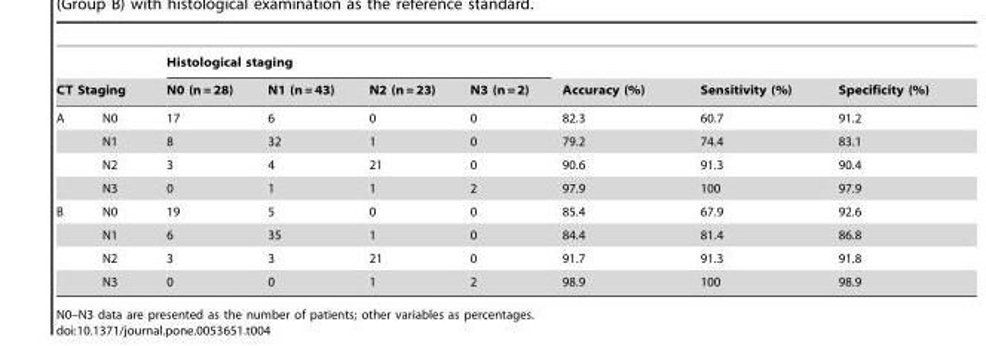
<table><thead><tr><td></td><td></td><td colspan="4">Histological staging</td><td rowspan="2">Accuracy (%)</td><td rowspan="2">Sensitivity (%)</td><td rowspan="2">Specificity (%)</td></tr><tr><td colspan="2">CT Staging</td><td>N0 (n = 28)</td><td>N1 (n = 43)</td><td>N2 (n = 23)</td><td>N3 (n = 2)</td></tr></thead><tbody><tr><td rowspan="4">A</td><td>N0</td><td>17</td><td>6</td><td>0</td><td>0</td><td>82.3</td><td>60.7</td><td>91.2</td></tr><tr><td>N1</td><td>8</td><td>32</td><td>1</td><td>0</td><td>79.2</td><td>74.4</td><td>83.1</td></tr><tr><td>N2</td><td>3</td><td>4</td><td>21</td><td>0</td><td>90.6</td><td>91.3</td><td>90.4</td></tr><tr><td>N3</td><td>0</td><td>1</td><td>1</td><td>2</td><td>97.9</td><td>100</td><td>97.9</td></tr><tr><td rowspan="4">B</td><td>N0</td><td>19</td><td>5</td><td>0</td><td>0</td><td>85.4</td><td>67.9</td><td>92.6</td></tr><tr><td>N1</td><td>6</td><td>35</td><td>1</td><td>0</td><td>84.4</td><td>81.4</td><td>86.8</td></tr><tr><td>N2</td><td>3</td><td>3</td><td>21</td><td>0</td><td>91.7</td><td>91.3</td><td>91.8</td></tr><tr><td>N3</td><td>0</td><td>0</td><td>1</td><td>2</td><td>98.9</td><td>100</td><td>98.9</td></tr></tbody></table>